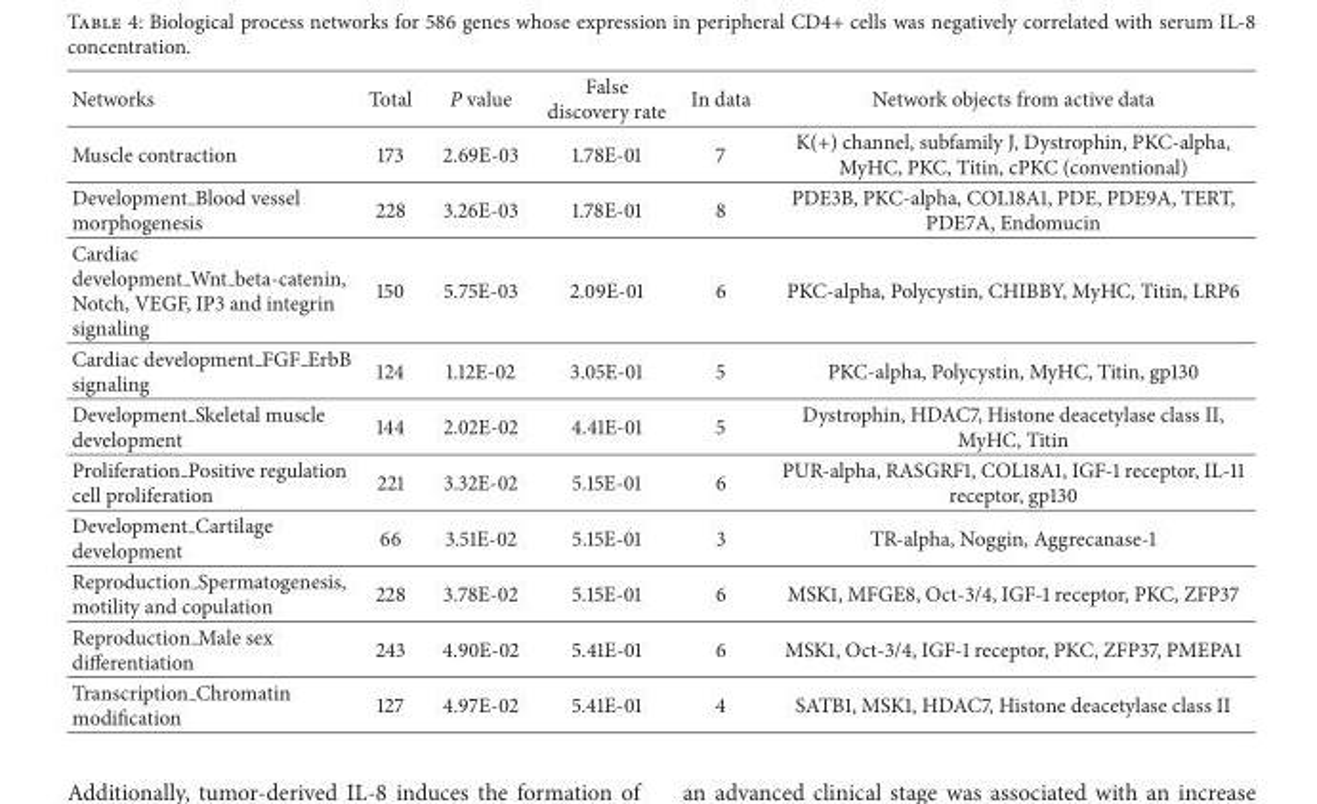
<table><thead><tr><td>Networks</td><td>Total</td><td>P value</td><td>False discovery rate</td><td>In data</td><td>Network objects from active data</td></tr></thead><tbody><tr><td>Muscle contraction</td><td>173</td><td>2.69E-03</td><td>1.78E-01</td><td>7</td><td>K(+) channel, subfamily J, Dystrophin, PKC-alpha, MyHC, PKC, Titin, cPKC (conventional)</td></tr><tr><td>Development Blood vessel morphogenesis</td><td>228</td><td>3.26E-03</td><td>1.78E-01</td><td>8</td><td>PDE3B, PKC-alpha, COL18A1, PDE, PDE9A, TERT, PDE7A, Endomucin</td></tr><tr><td>Cardiac development <sub>Wnt</sub> beta-catenin, Notch, VEGF, IP3 and integrin signaling</td><td>150</td><td>5.75E-03</td><td>2.09E-01</td><td>6</td><td>PKC-alpha, Polycystin, CHIBBY, MyHC, Titin, LRP6</td></tr><tr><td>Cardiac development <sub>FGF</sub> ErbB signaling</td><td>124</td><td>1.12E-02</td><td>3.05E-01</td><td>5</td><td>PKC-alpha, Polycystin, MyHC, Titin, gp130</td></tr><tr><td>Development Skeletal muscle development</td><td>144</td><td>2.02E-02</td><td>4.41E-01</td><td>5</td><td>Dystrophin, HDAC7, Histone deacetylase class II, MyHC, Titin</td></tr><tr><td>Proliferation Positive regulation cell proliferation</td><td>221</td><td>3.32E-02</td><td>5.15E-01</td><td>6</td><td>PUR-alpha, RASGRF1, COL18A1, IGF-1 receptor, IL-11 receptor, gp130</td></tr><tr><td>Development Cartilage development</td><td>66</td><td>3.51E-02</td><td>5.15E-01</td><td>3</td><td>TR-alpha, Noggin, Aggrecanase-1</td></tr><tr><td>Reproduction Spermatogenesis, motility and copulation</td><td>228</td><td>3.78E-02</td><td>5.15E-01</td><td>6</td><td>MSK1, MFGE8, Oct-3/4, IGF-1 receptor, PKC, ZFP37</td></tr><tr><td>Reproduction Male sex differentiation</td><td>243</td><td>4.90E-02</td><td>5.41E-01</td><td>6</td><td>MSK1, Oct-3/4, IGF-1 receptor, PKC, ZFP37, PMEPA1</td></tr><tr><td>Transcription Chromatin modification</td><td>127</td><td>4.97E-02</td><td>5.41E-01</td><td>4</td><td>SATB1, MSK1, HDAC7, Histone deacetylase class II</td></tr></tbody></table>